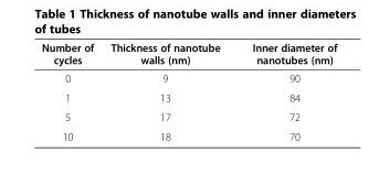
<table><thead><tr><td>Number of cycles</td><td>Thickness of nanotube walls (nm)</td><td>Inner diameter of nanotubes (nm)</td></tr></thead><tbody><tr><td>0</td><td>9</td><td>90</td></tr><tr><td>1</td><td>13</td><td>84</td></tr><tr><td>5</td><td>17</td><td>72</td></tr><tr><td>10</td><td>18</td><td>70</td></tr></tbody></table>